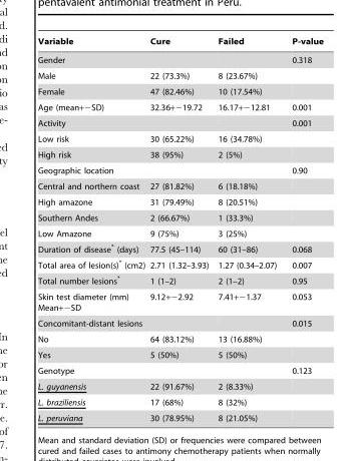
<table><thead><tr><td>Variable</td><td>Cure</td><td>Failed</td><td>P-value</td></tr></thead><tbody><tr><td>Gender</td><td></td><td></td><td>0.318</td></tr><tr><td>Male</td><td>22 (73.3%)</td><td>8 (23.67%)</td><td></td></tr><tr><td>Female</td><td>47 (82.46%)</td><td>10 (17.54%)</td><td></td></tr><tr><td>Age (mean+−SD)</td><td>32.36+−19.72</td><td>16.17+−12.81</td><td>0.001</td></tr><tr><td>Activity</td><td></td><td></td><td>0.001</td></tr><tr><td>Low risk</td><td>30 (65.22%)</td><td>16 (34.78%)</td><td></td></tr><tr><td>High risk</td><td>38 (95%)</td><td>2 (5%)</td><td></td></tr><tr><td>Geographic location</td><td></td><td></td><td>0.90</td></tr><tr><td>Central and northern coast</td><td>27 (81.82%)</td><td>6 (18.18%)</td><td></td></tr><tr><td>High amazone</td><td>31 (79.49%)</td><td>8 (20.51%)</td><td></td></tr><tr><td>Southern Andes</td><td>2 (66.67%)</td><td>1 (33.3%)</td><td></td></tr><tr><td>Low Amazone</td><td>9 (75%)</td><td>3 (25%)</td><td></td></tr><tr><td>Duration of disease* (days)</td><td>77.5 (45–114)</td><td>60 (31–86)</td><td>0.068</td></tr><tr><td>Total area of lesion(s)* (cm2)</td><td>2.71 (1.32–3.93)</td><td>1.27 (0.34–2.07)</td><td>0.007</td></tr><tr><td>Total number lesions*</td><td>1 (1–2)</td><td>2 (1–2)</td><td>0.95</td></tr><tr><td>Skin test diameter (mm) Mean+−SD</td><td>9.12+−2.92</td><td>7.41+−1.37</td><td>0.053</td></tr><tr><td>Concomitant-distant lesions</td><td></td><td></td><td>0.015</td></tr><tr><td>No</td><td>64 (83.12%)</td><td>13 (16.88%)</td><td></td></tr><tr><td>Yes</td><td>5 (50%)</td><td>5 (50%)</td><td></td></tr><tr><td>Genotype</td><td></td><td></td><td>0.123</td></tr><tr><td>L. guyanensis</td><td>22 (91.67%)</td><td>2 (8.33%)</td><td></td></tr><tr><td>L. braziliensis</td><td>17 (68%)</td><td>8 (32%)</td><td></td></tr><tr><td>L. peruviana</td><td>30 (78.95%)</td><td>8 (21.05%)</td><td></td></tr></tbody></table>